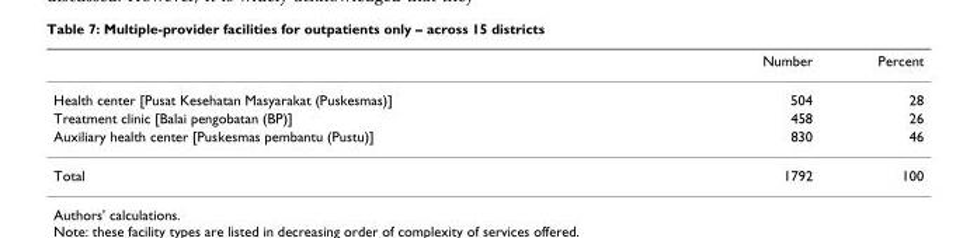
<table><thead><tr><td></td><td>Number</td><td>Percent</td></tr></thead><tbody><tr><td>Health center [Pusat Kesehatan Masyarakat (Puskesmas)]</td><td>504</td><td>28</td></tr><tr><td>Treatment clinic [Balai pengobatan (BP)]</td><td>458</td><td>26</td></tr><tr><td>Auxiliary health center [Puskesmas pembantu (Pustu)]</td><td>830</td><td>46</td></tr><tr><td>Total</td><td>1792</td><td>100</td></tr></tbody></table>